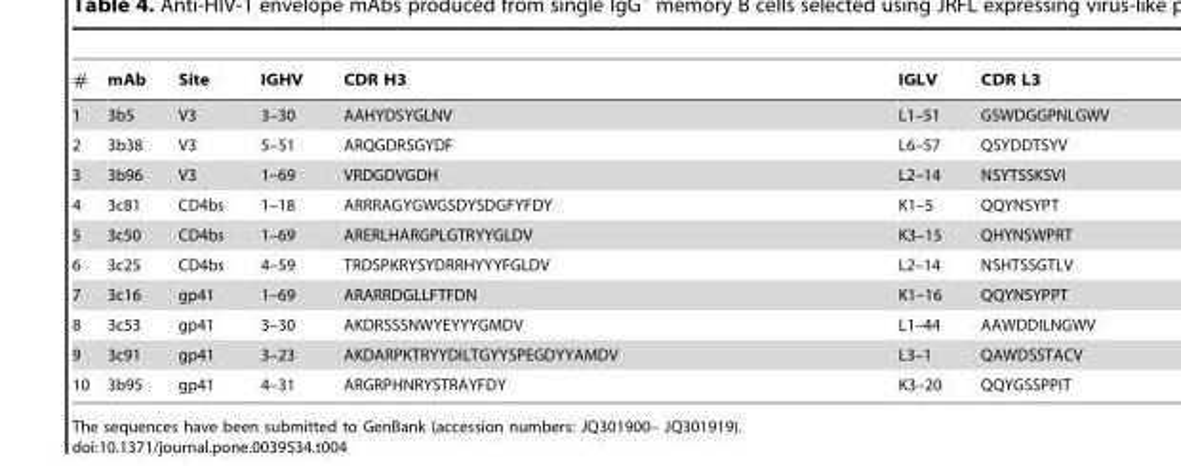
<table><thead><tr><td>#</td><td>mAb</td><td>Site</td><td>IGHV</td><td>CDR H3</td><td>IGLV</td><td>CDR L3</td></tr></thead><tbody><tr><td>1</td><td>3b5</td><td>V3</td><td>3–30</td><td>AAHYDSYGLNV</td><td>L1–51</td><td>GSWDGGPNLGWV</td></tr><tr><td>2</td><td>3b38</td><td>V3</td><td>5–51</td><td>ARQGDRSGYDF</td><td>L6–57</td><td>QSYDDTSYV</td></tr><tr><td>3</td><td>3b96</td><td>V3</td><td>1–69</td><td>VRDGDVGDH</td><td>L2–14</td><td>NSYTSSKSVI</td></tr><tr><td>4</td><td>3c81</td><td>CD4bs</td><td>1–18</td><td>ARRRAGYGWGSDYSDGFYFDY</td><td>K1–5</td><td>QQYNSYPT</td></tr><tr><td>5</td><td>3c50</td><td>CD4bs</td><td>1–69</td><td>ARERLHARGPLGTRYYGLDV</td><td>K3–15</td><td>QHYNSWPRT</td></tr><tr><td>6</td><td>3c25</td><td>CD4bs</td><td>4–59</td><td>TRDSPKRYSYDRRHYYYFGLDV</td><td>L2–14</td><td>NSHTSSGTLV</td></tr><tr><td>7</td><td>3c16</td><td>gp41</td><td>1–69</td><td>ARARRDGLLFTFDN</td><td>K1–16</td><td>QQYNSYPPT</td></tr><tr><td>8</td><td>3c53</td><td>gp41</td><td>3–30</td><td>AKDRSSSNWYEYYYGMDV</td><td>L1–44</td><td>AAWDDILNGWV</td></tr><tr><td>9</td><td>3c91</td><td>gp41</td><td>3–23</td><td>AKDARPKTRYYDILTGYYSPEGDYYAMDV</td><td>L3–1</td><td>QAWDSSTACV</td></tr><tr><td>10</td><td>3b95</td><td>gp41</td><td>4–31</td><td>ARGRPHNRYSTRAYFDY</td><td>K3–20</td><td>QQYGSSPPIT</td></tr></tbody></table>